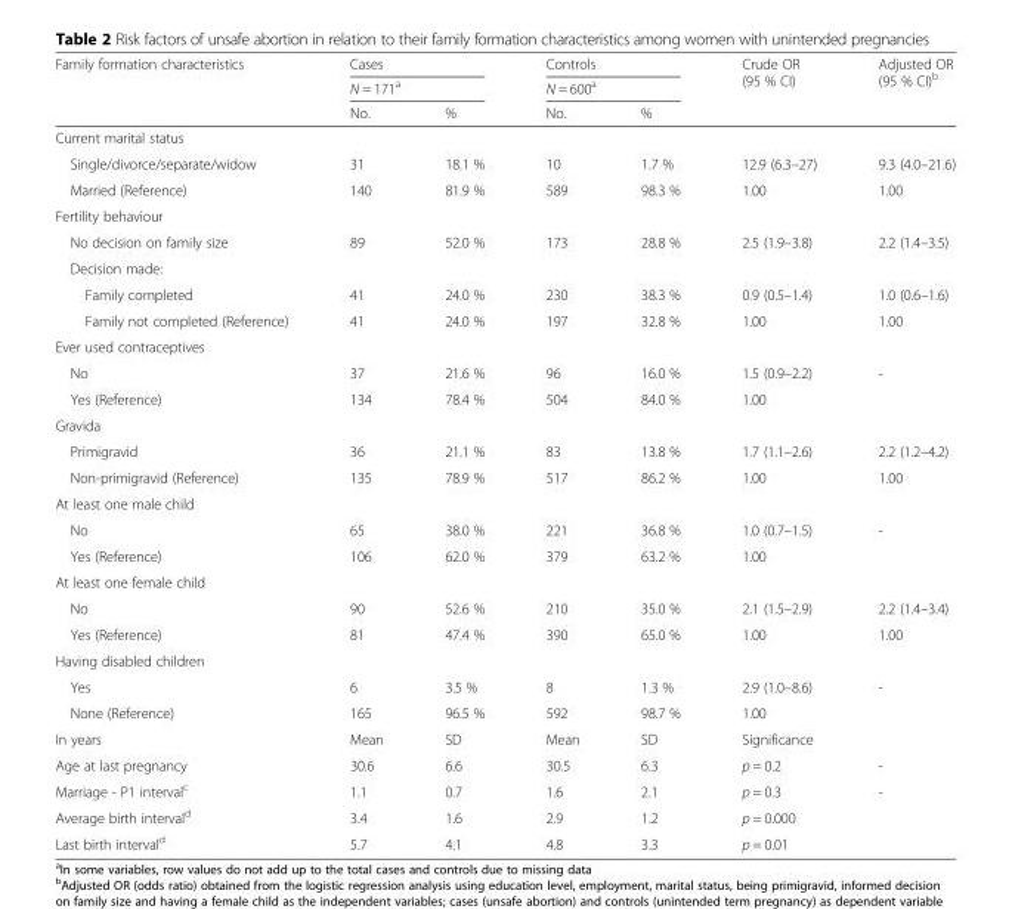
<table><thead><tr><td rowspan="3">Family formation characteristics</td><td rowspan="2" colspan="2">Cases N = 171<sup>a</sup></td><td rowspan="2" colspan="2">Controls N = 600<sup>a</sup></td><td rowspan="3">Crude OR (95 % CI)</td><td rowspan="3">Adjusted OR (95 % CI)<sup>b</sup></td></tr><tr></tr><tr><td>No.</td><td>%</td><td>No.</td><td>%</td></tr></thead><tbody><tr><td colspan="7">Current marital status</td></tr><tr><td>Single/divorce/separate/widow</td><td>31</td><td>18.1 %</td><td>10</td><td>1.7 %</td><td>12.9 (6.3–27)</td><td>9.3 (4.0–21.6)</td></tr><tr><td>Married (Reference)</td><td>140</td><td>81.9 %</td><td>589</td><td>98.3 %</td><td>1.00</td><td>1.00</td></tr><tr><td colspan="7">Fertility behaviour</td></tr><tr><td>No decision on family size</td><td>89</td><td>52.0 %</td><td>173</td><td>28.8 %</td><td>2.5 (1.9–3.8)</td><td>2.2 (1.4–3.5)</td></tr><tr><td colspan="7">Decision made:</td></tr><tr><td>Family completed</td><td>41</td><td>24.0 %</td><td>230</td><td>38.3 %</td><td>0.9 (0.5–1.4)</td><td>1.0 (0.6–1.6)</td></tr><tr><td>Family not completed (Reference)</td><td>41</td><td>24.0 %</td><td>197</td><td>32.8 %</td><td>1.00</td><td>1.00</td></tr><tr><td colspan="7">Ever used contraceptives</td></tr><tr><td>No</td><td>37</td><td>21.6 %</td><td>96</td><td>16.0 %</td><td>1.5 (0.9–2.2)</td><td>-</td></tr><tr><td>Yes (Reference)</td><td>134</td><td>78.4 %</td><td>504</td><td>84.0 %</td><td>1.00</td><td></td></tr><tr><td colspan="7">Gravida</td></tr><tr><td>Primigravid</td><td>36</td><td>21.1 %</td><td>83</td><td>13.8 %</td><td>1.7 (1.1–2.6)</td><td>2.2 (1.2–4.2)</td></tr><tr><td>Non-primigravid (Reference)</td><td>135</td><td>78.9 %</td><td>517</td><td>86.2 %</td><td>1.00</td><td>1.00</td></tr><tr><td colspan="7">At least one male child</td></tr><tr><td>No</td><td>65</td><td>38.0 %</td><td>221</td><td>36.8 %</td><td>1.0 (0.7–1.5)</td><td>-</td></tr><tr><td>Yes (Reference)</td><td>106</td><td>62.0 %</td><td>379</td><td>63.2 %</td><td>1.00</td><td></td></tr><tr><td colspan="7">At least one female child</td></tr><tr><td>No</td><td>90</td><td>52.6 %</td><td>210</td><td>35.0 %</td><td>2.1 (1.5–2.9)</td><td>2.2 (1.4–3.4)</td></tr><tr><td>Yes (Reference)</td><td>81</td><td>47.4 %</td><td>390</td><td>65.0 %</td><td>1.00</td><td>1.00</td></tr><tr><td colspan="7">Having disabled children</td></tr><tr><td>Yes</td><td>6</td><td>3.5 %</td><td>8</td><td>1.3 %</td><td>2.9 (1.0–8.6)</td><td>-</td></tr><tr><td>None (Reference)</td><td>165</td><td>96.5 %</td><td>592</td><td>98.7 %</td><td>1.00</td><td></td></tr><tr><td>In years</td><td>Mean</td><td>SD</td><td>Mean</td><td>SD</td><td>Significance</td><td></td></tr><tr><td>Age at last pregnancy</td><td>30.6</td><td>6.6</td><td>30.5</td><td>6.3</td><td>p = 0.2</td><td>-</td></tr><tr><td>Marriage - P1 interval<sup>c</sup></td><td>1.1</td><td>0.7</td><td>1.6</td><td>2.1</td><td>p = 0.3</td><td>-</td></tr><tr><td>Average birth interval<sup>d</sup></td><td>3.4</td><td>1.6</td><td>2.9</td><td>1.2</td><td>p = 0.000</td><td></td></tr><tr><td>Last birth interval<sup>d</sup></td><td>5.7</td><td>4.1</td><td>4.8</td><td>3.3</td><td>p = 0.01</td><td></td></tr></tbody></table>